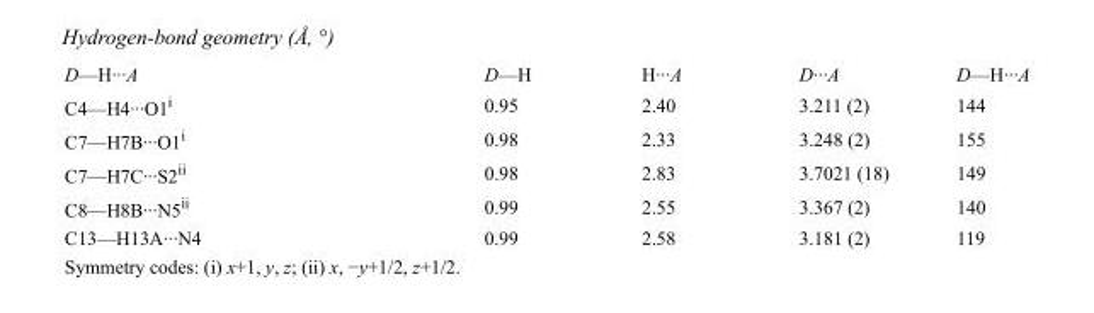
<table><tbody><tr><td>D—H···A</td><td>D—H</td><td>H···A</td><td>D···A</td><td>D—H···A</td></tr><tr><td>C4—H4···O1<sup>i</sup></td><td>0.95</td><td>2.40</td><td>3.211 (2)</td><td>144</td></tr><tr><td>C7—H7B···O1<sup>i</sup></td><td>0.98</td><td>2.33</td><td>3.248 (2)</td><td>155</td></tr><tr><td>C7—H7C···S2<sup>ii</sup></td><td>0.98</td><td>2.83</td><td>3.7021 (18)</td><td>149</td></tr><tr><td>C8—H8B···N5<sup>ii</sup></td><td>0.99</td><td>2.55</td><td>3.367 (2)</td><td>140</td></tr><tr><td>C13—H13A···N4</td><td>0.99</td><td>2.58</td><td>3.181 (2)</td><td>119</td></tr></tbody></table>